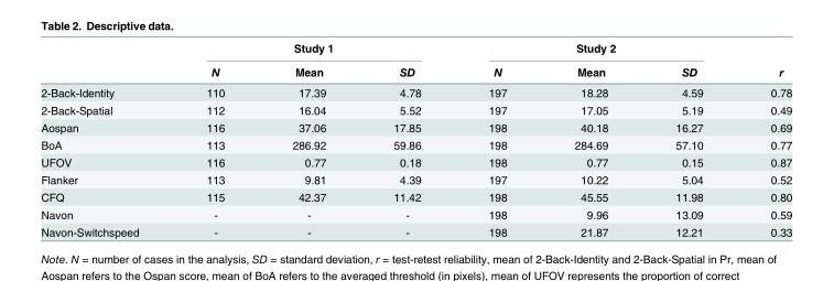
<table><thead><tr><td rowspan="2"></td><td colspan="3">Study 1</td><td colspan="3">Study 2</td><td rowspan="2">r</td></tr><tr><td>N</td><td>Mean</td><td>SD</td><td>N</td><td>Mean</td><td>SD</td></tr></thead><tbody><tr><td>2-Back-Identity</td><td>110</td><td>17.39</td><td>4.78</td><td>197</td><td>18.28</td><td>4.59</td><td>0.78</td></tr><tr><td>2-Back-Spatial</td><td>112</td><td>16.04</td><td>5.52</td><td>197</td><td>17.05</td><td>5.19</td><td>0.49</td></tr><tr><td>Aospan</td><td>116</td><td>37.06</td><td>17.85</td><td>198</td><td>40.18</td><td>16.27</td><td>0.69</td></tr><tr><td>BoA</td><td>113</td><td>286.92</td><td>59.86</td><td>198</td><td>284.69</td><td>57.10</td><td>0.77</td></tr><tr><td>UFOV</td><td>116</td><td>0.77</td><td>0.18</td><td>198</td><td>0.77</td><td>0.15</td><td>0.87</td></tr><tr><td>Flanker</td><td>113</td><td>9.81</td><td>4.39</td><td>197</td><td>10.22</td><td>5.04</td><td>0.52</td></tr><tr><td>CFQ</td><td>115</td><td>42.37</td><td>11.42</td><td>198</td><td>45.55</td><td>11.98</td><td>0.80</td></tr><tr><td>Navon</td><td>-</td><td>-</td><td>-</td><td>198</td><td>9.96</td><td>13.09</td><td>0.59</td></tr><tr><td>Navon-Switchspeed</td><td>-</td><td>-</td><td>-</td><td>198</td><td>21.87</td><td>12.21</td><td>0.33</td></tr></tbody></table>